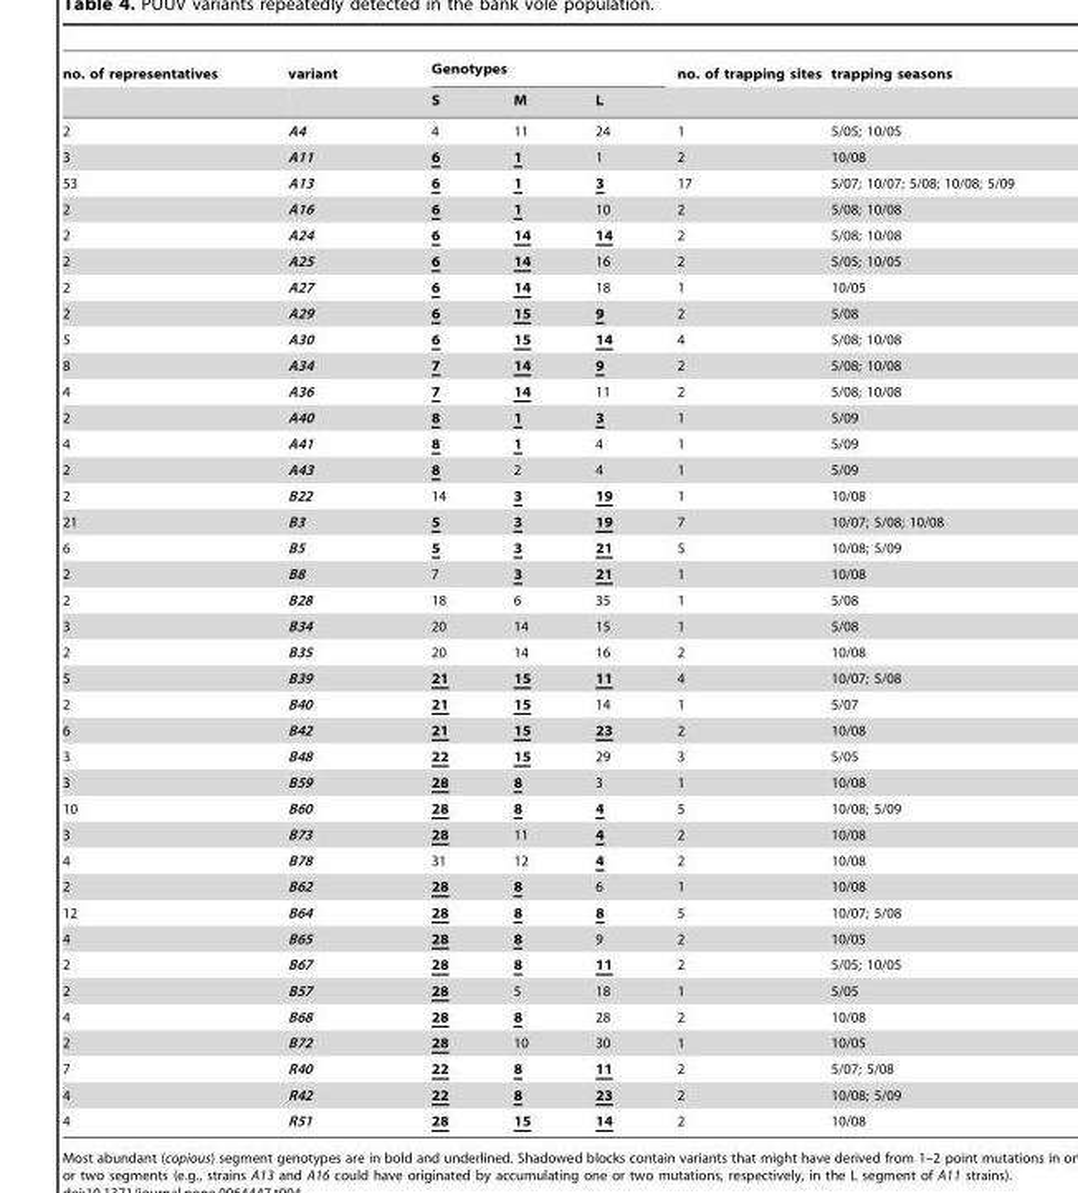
<table><thead><tr><td rowspan="2">no. of representatives</td><td rowspan="2">variant</td><td colspan="3">Genotypes</td><td rowspan="2">no. of trapping sites</td><td rowspan="2">trapping seasons</td></tr><tr><td>S</td><td>M</td><td>L</td></tr></thead><tbody><tr><td>2</td><td>A4</td><td>4</td><td>11</td><td>24</td><td>1</td><td>5/05; 10/05</td></tr><tr><td>3</td><td>A11</td><td>6</td><td>1</td><td>1</td><td>2</td><td>10/08</td></tr><tr><td>53</td><td>A13</td><td>6</td><td>1</td><td>3</td><td>17</td><td>5/07; 10/07; 5/08; 10/08; 5/09</td></tr><tr><td>2</td><td>A16</td><td>6</td><td>1</td><td>10</td><td>2</td><td>5/08; 10/08</td></tr><tr><td>2</td><td>A24</td><td>6</td><td>14</td><td>14</td><td>2</td><td>5/08; 10/08</td></tr><tr><td>2</td><td>A25</td><td>6</td><td>14</td><td>16</td><td>2</td><td>5/05; 10/05</td></tr><tr><td>2</td><td>A27</td><td>6</td><td>14</td><td>18</td><td>1</td><td>10/05</td></tr><tr><td>2</td><td>A29</td><td>6</td><td>15</td><td>9</td><td>2</td><td>5/08</td></tr><tr><td>5</td><td>A30</td><td>6</td><td>15</td><td>14</td><td>4</td><td>5/08; 10/08</td></tr><tr><td>8</td><td>A34</td><td>7</td><td>14</td><td>9</td><td>2</td><td>5/08; 10/08</td></tr><tr><td>4</td><td>A36</td><td>7</td><td>14</td><td>11</td><td>2</td><td>5/08; 10/08</td></tr><tr><td>2</td><td>A40</td><td>8</td><td>1</td><td>3</td><td>1</td><td>5/09</td></tr><tr><td>4</td><td>A41</td><td>8</td><td>1</td><td>4</td><td>1</td><td>5/09</td></tr><tr><td>2</td><td>A43</td><td>8</td><td>2</td><td>4</td><td>1</td><td>5/09</td></tr><tr><td>2</td><td>B22</td><td>14</td><td>3</td><td>19</td><td>1</td><td>10/08</td></tr><tr><td>21</td><td>B3</td><td>5</td><td>3</td><td>19</td><td>7</td><td>10/07; 5/08; 10/08</td></tr><tr><td>6</td><td>B5</td><td>5</td><td>3</td><td>21</td><td>5</td><td>10/08; 5/09</td></tr><tr><td>2</td><td>B8</td><td>7</td><td>3</td><td>21</td><td>1</td><td>10/08</td></tr><tr><td>2</td><td>B28</td><td>18</td><td>6</td><td>35</td><td>1</td><td>5/08</td></tr><tr><td>3</td><td>B34</td><td>20</td><td>14</td><td>15</td><td>1</td><td>5/08</td></tr><tr><td>2</td><td>B35</td><td>20</td><td>14</td><td>16</td><td>2</td><td>10/08</td></tr><tr><td>5</td><td>B39</td><td>21</td><td>15</td><td>11</td><td>4</td><td>10/07; 5/08</td></tr><tr><td>2</td><td>B40</td><td>21</td><td>15</td><td>14</td><td>1</td><td>5/07</td></tr><tr><td>6</td><td>B42</td><td>21</td><td>15</td><td>23</td><td>2</td><td>10/08</td></tr><tr><td>3</td><td>B48</td><td>22</td><td>15</td><td>29</td><td>3</td><td>5/05</td></tr><tr><td>3</td><td>B59</td><td>28</td><td>8</td><td>3</td><td>1</td><td>10/08</td></tr><tr><td>10</td><td>B60</td><td>28</td><td>8</td><td>4</td><td>5</td><td>10/08; 5/09</td></tr><tr><td>3</td><td>B73</td><td>28</td><td>11</td><td>4</td><td>2</td><td>10/08</td></tr><tr><td>4</td><td>B78</td><td>31</td><td>12</td><td>4</td><td>2</td><td>10/08</td></tr><tr><td>2</td><td>B62</td><td>28</td><td>8</td><td>6</td><td>1</td><td>10/08</td></tr><tr><td>12</td><td>B64</td><td>28</td><td>8</td><td>8</td><td>5</td><td>10/07; 5/08</td></tr><tr><td>4</td><td>B65</td><td>28</td><td>8</td><td>9</td><td>2</td><td>10/05</td></tr><tr><td>2</td><td>B67</td><td>28</td><td>8</td><td>11</td><td>2</td><td>5/05; 10/05</td></tr><tr><td>2</td><td>B57</td><td>28</td><td>5</td><td>18</td><td>1</td><td>5/05</td></tr><tr><td>4</td><td>B68</td><td>28</td><td>8</td><td>28</td><td>2</td><td>10/08</td></tr><tr><td>2</td><td>B72</td><td>28</td><td>10</td><td>30</td><td>1</td><td>10/05</td></tr><tr><td>7</td><td>R40</td><td>22</td><td>8</td><td>11</td><td>2</td><td>5/07; 5/08</td></tr><tr><td>4</td><td>R42</td><td>22</td><td>8</td><td>23</td><td>2</td><td>10/08; 5/09</td></tr><tr><td>4</td><td>R51</td><td>28</td><td>15</td><td>14</td><td>2</td><td>10/08</td></tr></tbody></table>